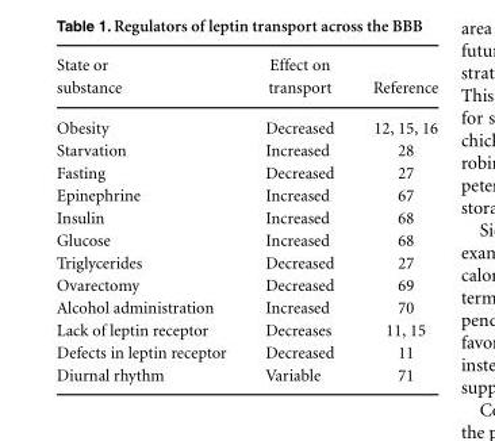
<table><thead><tr><td>State or substance</td><td>Effect on transport</td><td>Reference</td></tr></thead><tbody><tr><td>Obesity</td><td>Decreased</td><td>12, 15, 16</td></tr><tr><td>Starvation</td><td>Increased</td><td>28</td></tr><tr><td>Fasting</td><td>Decreased</td><td>27</td></tr><tr><td>Epinephrine</td><td>Increased</td><td>67</td></tr><tr><td>Insulin</td><td>Increased</td><td>68</td></tr><tr><td>Glucose</td><td>Increased</td><td>68</td></tr><tr><td>Triglycerides</td><td>Decreased</td><td>27</td></tr><tr><td>Ovarectomy</td><td>Decreased</td><td>69</td></tr><tr><td>Alcohol administration</td><td>Increased</td><td>70</td></tr><tr><td>Lack of leptin receptor</td><td>Decreases</td><td>11, 15</td></tr><tr><td>Defects in leptin receptor</td><td>Decreased</td><td>11</td></tr><tr><td>Diurnal rhythm</td><td>Variable</td><td>71</td></tr></tbody></table>